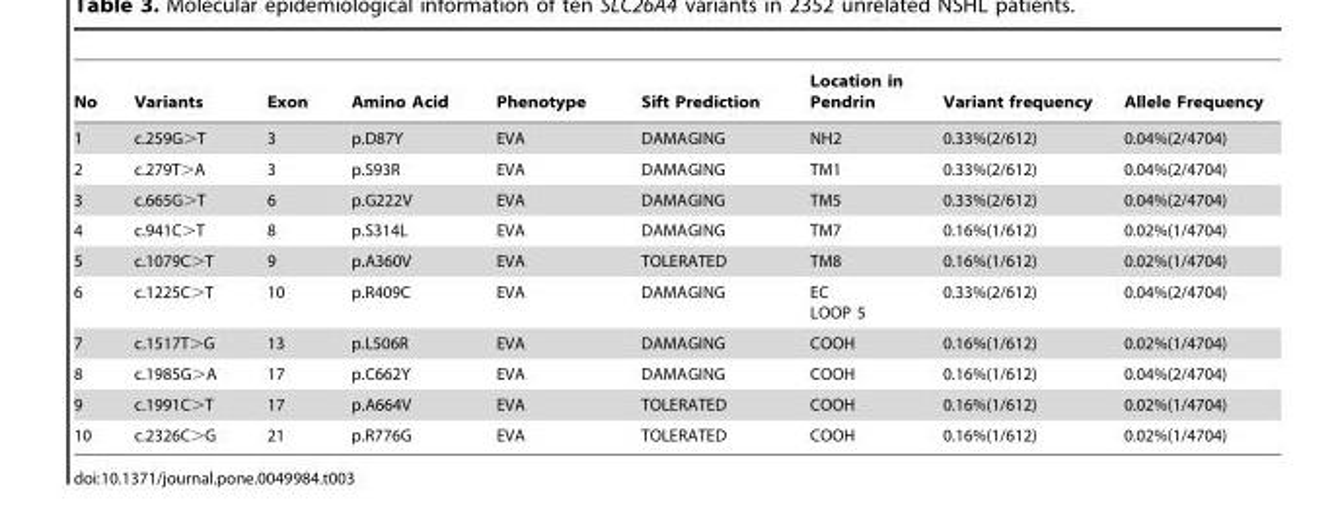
<table><thead><tr><td>No</td><td>Variants</td><td>Exon</td><td>Amino Acid</td><td>Phenotype</td><td>Sift Prediction</td><td>Location in Pendrin</td><td>Variant frequency</td><td>Allele Frequency</td></tr></thead><tbody><tr><td>1</td><td>c.259G&gt;T</td><td>3</td><td>p.D87Y</td><td>EVA</td><td>DAMAGING</td><td>NH2</td><td>0.33%(2/612)</td><td>0.04%(2/4704)</td></tr><tr><td>2</td><td>c.279T&gt;A</td><td>3</td><td>p.S93R</td><td>EVA</td><td>DAMAGING</td><td>TM1</td><td>0.33%(2/612)</td><td>0.04%(2/4704)</td></tr><tr><td>3</td><td>c.665G&gt;T</td><td>6</td><td>p.G222V</td><td>EVA</td><td>DAMAGING</td><td>TM5</td><td>0.33%(2/612)</td><td>0.04%(2/4704)</td></tr><tr><td>4</td><td>c.941C&gt;T</td><td>8</td><td>p.S314L</td><td>EVA</td><td>DAMAGING</td><td>TM7</td><td>0.16%(1/612)</td><td>0.02%(1/4704)</td></tr><tr><td>5</td><td>c.1079C&gt;T</td><td>9</td><td>p.A360V</td><td>EVA</td><td>TOLERATED</td><td>TM8</td><td>0.16%(1/612)</td><td>0.02%(1/4704)</td></tr><tr><td>6</td><td>c.1225C&gt;T</td><td>10</td><td>p.R409C</td><td>EVA</td><td>DAMAGING</td><td>EC LOOP 5</td><td>0.33%(2/612)</td><td>0.04%(2/4704)</td></tr><tr><td>7</td><td>c.1517T&gt;G</td><td>13</td><td>p.L506R</td><td>EVA</td><td>DAMAGING</td><td>COOH</td><td>0.16%(1/612)</td><td>0.02%(1/4704)</td></tr><tr><td>8</td><td>c.1985G&gt;A</td><td>17</td><td>p.C662Y</td><td>EVA</td><td>DAMAGING</td><td>COOH</td><td>0.16%(1/612)</td><td>0.04%(2/4704)</td></tr><tr><td>9</td><td>c.1991C&gt;T</td><td>17</td><td>p.A664V</td><td>EVA</td><td>TOLERATED</td><td>COOH</td><td>0.16%(1/612)</td><td>0.02%(1/4704)</td></tr><tr><td>10</td><td>c.2326C&gt;G</td><td>21</td><td>p.R776G</td><td>EVA</td><td>TOLERATED</td><td>COOH</td><td>0.16%(1/612)</td><td>0.02%(1/4704)</td></tr></tbody></table>